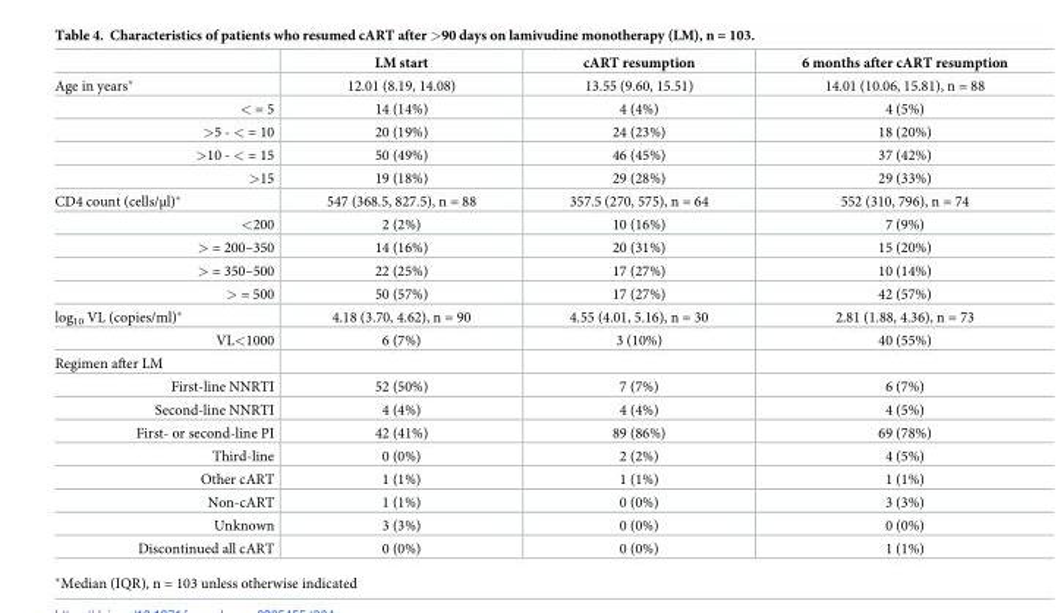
<table><thead><tr><td></td><td>LM start</td><td>cART resumption</td><td>6 months after cART resumption</td></tr></thead><tbody><tr><td>Age in years*</td><td>12.01 (8.19, 14.08)</td><td>13.55 (9.60, 15.51)</td><td>14.01 (10.06, 15.81), n = 88</td></tr><tr><td>&lt; = 5</td><td>14 (14%)</td><td>4 (4%)</td><td>4 (5%)</td></tr><tr><td>&gt;5 - &lt; = 10</td><td>20 (19%)</td><td>24 (23%)</td><td>18 (20%)</td></tr><tr><td>&gt;10 - &lt; = 15</td><td>50 (49%)</td><td>46 (45%)</td><td>37 (42%)</td></tr><tr><td>&gt;15</td><td>19 (18%)</td><td>29 (28%)</td><td>29 (33%)</td></tr><tr><td>CD4 count (cells/μl)*</td><td>547 (368.5, 827.5), n = 88</td><td>357.5 (270, 575), n = 64</td><td>552 (310, 796), n = 74</td></tr><tr><td>&lt;200</td><td>2 (2%)</td><td>10 (16%)</td><td>7 (9%)</td></tr><tr><td>&gt; = 200–350</td><td>14 (16%)</td><td>20 (31%)</td><td>15 (20%)</td></tr><tr><td>&gt; = 350–500</td><td>22 (25%)</td><td>17 (27%)</td><td>10 (14%)</td></tr><tr><td>&gt; = 500</td><td>50 (57%)</td><td>17 (27%)</td><td>42 (57%)</td></tr><tr><td>log<sub>10</sub> VL (copies/ml)*</td><td>4.18 (3.70, 4.62), n = 90</td><td>4.55 (4.01, 5.16), n = 30</td><td>2.81 (1.88, 4.36), n = 73</td></tr><tr><td>VL&lt;1000</td><td>6 (7%)</td><td>3 (10%)</td><td>40 (55%)</td></tr><tr><td colspan="4">Regimen after LM</td></tr><tr><td>First-line NNRTI</td><td>52 (50%)</td><td>7 (7%)</td><td>6 (7%)</td></tr><tr><td>Second-line NNRTI</td><td>4 (4%)</td><td>4 (4%)</td><td>4 (5%)</td></tr><tr><td>First- or second-line PI</td><td>42 (41%)</td><td>89 (86%)</td><td>69 (78%)</td></tr><tr><td>Third-line</td><td>0 (0%)</td><td>2 (2%)</td><td>4 (5%)</td></tr><tr><td>Other cART</td><td>1 (1%)</td><td>1 (1%)</td><td>1 (1%)</td></tr><tr><td>Non-cART</td><td>1 (1%)</td><td>0 (0%)</td><td>3 (3%)</td></tr><tr><td>Unknown</td><td>3 (3%)</td><td>0 (0%)</td><td>0 (0%)</td></tr><tr><td>Discontinued all cART</td><td>0 (0%)</td><td>0 (0%)</td><td>1 (1%)</td></tr></tbody></table>